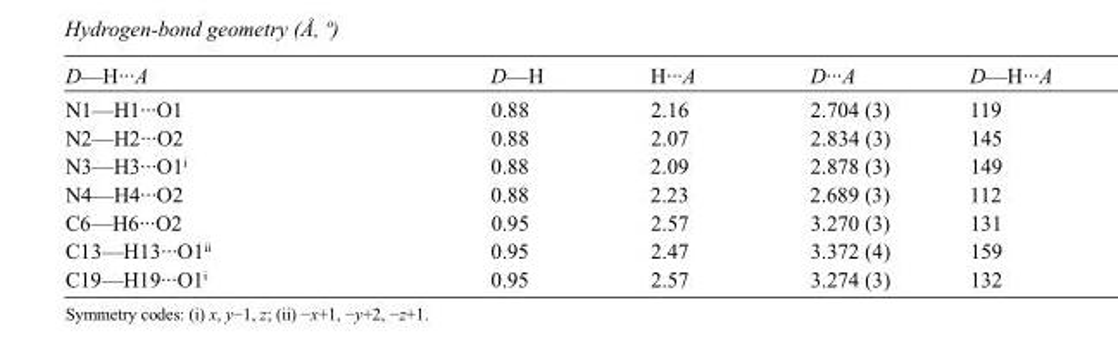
<table><tbody><tr><td>D—H···A</td><td>D—H</td><td>H···A</td><td>D···A</td><td>D—H···A</td></tr><tr><td>N1—H1···O1</td><td>0.88</td><td>2.16</td><td>2.704 (3)</td><td>119</td></tr><tr><td>N2—H2···O2</td><td>0.88</td><td>2.07</td><td>2.834 (3)</td><td>145</td></tr><tr><td>N3—H3···O1<sup>i</sup></td><td>0.88</td><td>2.09</td><td>2.878 (3)</td><td>149</td></tr><tr><td>N4—H4···O2</td><td>0.88</td><td>2.23</td><td>2.689 (3)</td><td>112</td></tr><tr><td>C6—H6···O2</td><td>0.95</td><td>2.57</td><td>3.270 (3)</td><td>131</td></tr><tr><td>C13—H13···O1<sup>ii</sup></td><td>0.95</td><td>2.47</td><td>3.372 (4)</td><td>159</td></tr><tr><td>C19—H19···O1<sup>i</sup></td><td>0.95</td><td>2.57</td><td>3.274 (3)</td><td>132</td></tr></tbody></table>